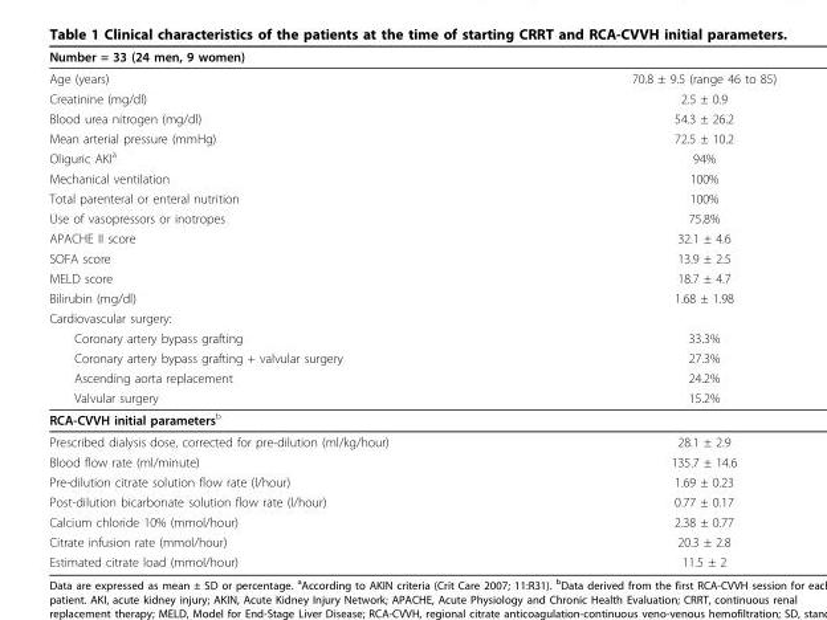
<table><thead><tr><td>Number = 33 (24 men, 9 women)</td><td></td></tr></thead><tbody><tr><td>Age (years)</td><td>70.8 ± 9.5 (range 46 to 85)</td></tr><tr><td>Creatinine (mg/dl)</td><td>2.5 ± 0.9</td></tr><tr><td>Blood urea nitrogen (mg/dl)</td><td>54.3 ± 26.2</td></tr><tr><td>Mean arterial pressure (mmHg)</td><td>72.5 ± 10.2</td></tr><tr><td>Oliguric AKI<sup>a</sup></td><td>94%</td></tr><tr><td>Mechanical ventilation</td><td>100%</td></tr><tr><td>Total parenteral or enteral nutrition</td><td>100%</td></tr><tr><td>Use of vasopressors or inotropes</td><td>75.8%</td></tr><tr><td>APACHE II score</td><td>32.1 ± 4.6</td></tr><tr><td>SOFA score</td><td>13.9 ± 2.5</td></tr><tr><td>MELD score</td><td>18.7 ± 4.7</td></tr><tr><td>Bilirubin (mg/dl)</td><td>1.68 ± 1.98</td></tr><tr><td colspan="2">Cardiovascular surgery:</td></tr><tr><td>Coronary artery bypass grafting</td><td>33.3%</td></tr><tr><td>Coronary artery bypass grafting + valvular surgery</td><td>27.3%</td></tr><tr><td>Ascending aorta replacement</td><td>24.2%</td></tr><tr><td>Valvular surgery</td><td>15.2%</td></tr><tr><td colspan="2">RCA-CVVH initial parameters<sup>b</sup></td></tr><tr><td>Prescribed dialysis dose, corrected for pre-dilution (ml/kg/hour)</td><td>28.1 ± 2.9</td></tr><tr><td>Blood flow rate (ml/minute)</td><td>135.7 ± 14.6</td></tr><tr><td>Pre-dilution citrate solution flow rate (l/hour)</td><td>1.69 ± 0.23</td></tr><tr><td>Post-dilution bicarbonate solution flow rate (l/hour)</td><td>0.77 ± 0.17</td></tr><tr><td>Calcium chloride 10% (mmol/hour)</td><td>2.38 ± 0.77</td></tr><tr><td>Citrate infusion rate (mmol/hour)</td><td>20.3 ± 2.8</td></tr><tr><td>Estimated citrate load (mmol/hour)</td><td>11.5 ± 2</td></tr></tbody></table>